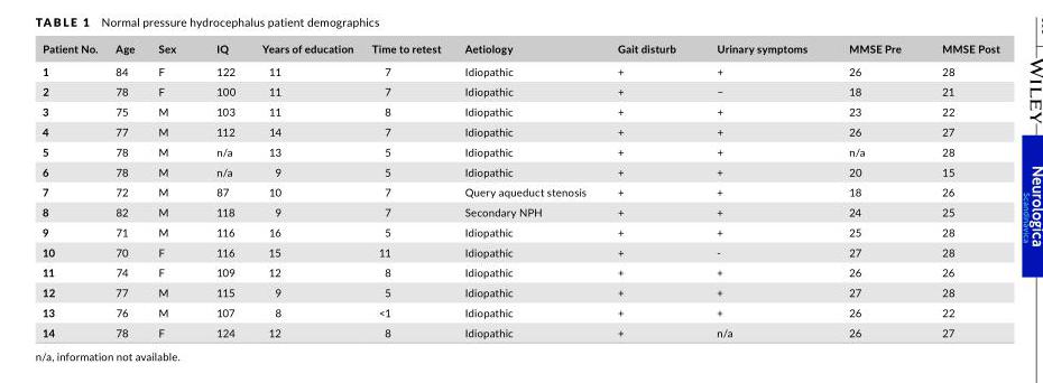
<table><thead><tr><td>Patient No.</td><td>Age</td><td>Sex</td><td>IQ</td><td>Years of education</td><td>Time to retest</td><td>Aetiology</td><td>Gait disturb</td><td>Urinary symptoms</td><td>MMSE Pre</td><td>MMSE Post</td></tr></thead><tbody><tr><td>1</td><td>84</td><td>F</td><td>122</td><td>11</td><td>7</td><td>Idiopathic</td><td>+</td><td>+</td><td>26</td><td>28</td></tr><tr><td>2</td><td>78</td><td>F</td><td>100</td><td>11</td><td>7</td><td>Idiopathic</td><td>+</td><td>−</td><td>18</td><td>21</td></tr><tr><td>3</td><td>75</td><td>M</td><td>103</td><td>11</td><td>8</td><td>Idiopathic</td><td>+</td><td>+</td><td>23</td><td>22</td></tr><tr><td>4</td><td>77</td><td>M</td><td>112</td><td>14</td><td>7</td><td>Idiopathic</td><td>+</td><td>+</td><td>26</td><td>27</td></tr><tr><td>5</td><td>78</td><td>M</td><td>n/a</td><td>13</td><td>5</td><td>Idiopathic</td><td>+</td><td>+</td><td>n/a</td><td>28</td></tr><tr><td>6</td><td>78</td><td>M</td><td>n/a</td><td>9</td><td>5</td><td>Idiopathic</td><td>+</td><td>+</td><td>20</td><td>15</td></tr><tr><td>7</td><td>72</td><td>M</td><td>87</td><td>10</td><td>7</td><td>Query aqueduct stenosis</td><td>+</td><td>+</td><td>18</td><td>26</td></tr><tr><td>8</td><td>82</td><td>M</td><td>118</td><td>9</td><td>7</td><td>Secondary NPH</td><td>+</td><td>+</td><td>24</td><td>25</td></tr><tr><td>9</td><td>71</td><td>M</td><td>116</td><td>16</td><td>5</td><td>Idiopathic</td><td>+</td><td>+</td><td>25</td><td>28</td></tr><tr><td>10</td><td>70</td><td>F</td><td>116</td><td>15</td><td>11</td><td>Idiopathic</td><td>+</td><td>‐</td><td>27</td><td>28</td></tr><tr><td>11</td><td>74</td><td>F</td><td>109</td><td>12</td><td>8</td><td>Idiopathic</td><td>+</td><td>+</td><td>26</td><td>26</td></tr><tr><td>12</td><td>77</td><td>M</td><td>115</td><td>9</td><td>5</td><td>Idiopathic</td><td>+</td><td>+</td><td>27</td><td>28</td></tr><tr><td>13</td><td>76</td><td>M</td><td>107</td><td>8</td><td>&lt;1</td><td>Idiopathic</td><td>+</td><td>+</td><td>26</td><td>22</td></tr><tr><td>14</td><td>78</td><td>F</td><td>124</td><td>12</td><td>8</td><td>Idiopathic</td><td>+</td><td>n/a</td><td>26</td><td>27</td></tr></tbody></table>